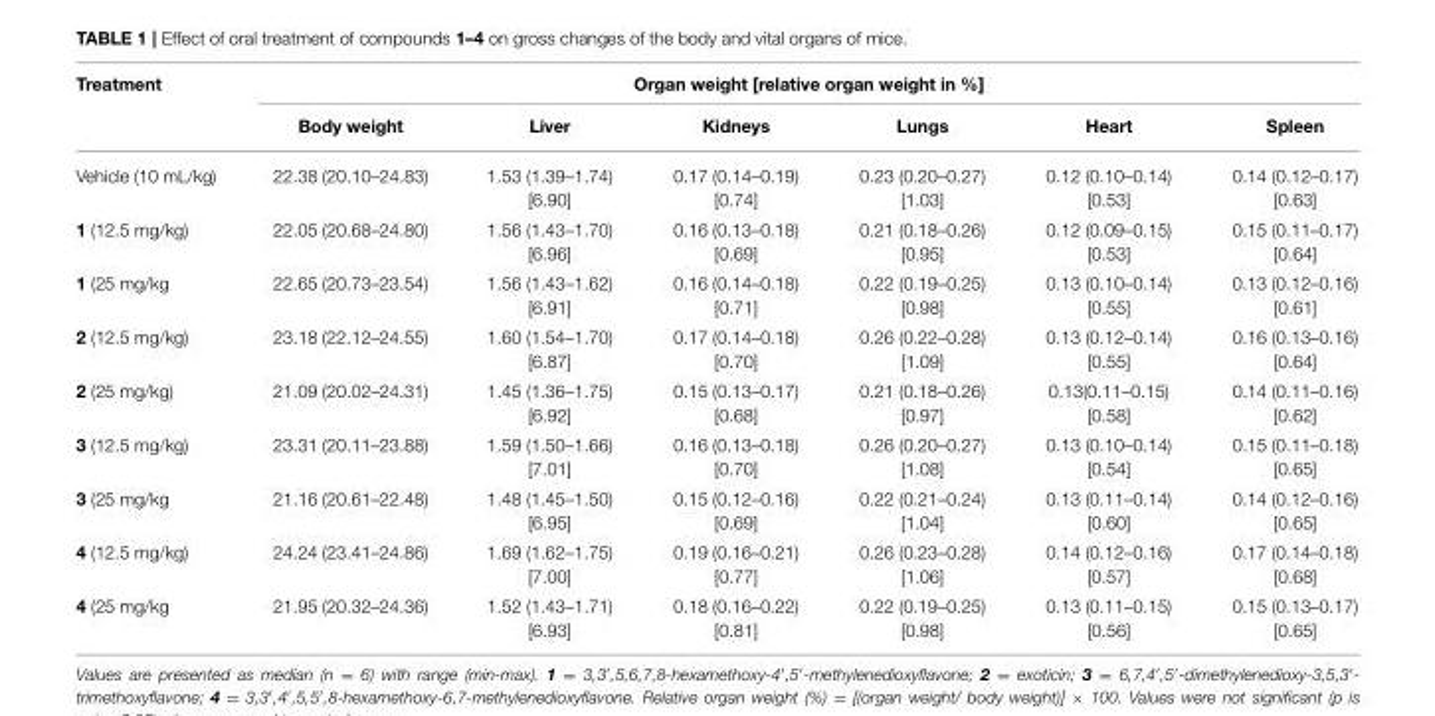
<table><thead><tr><td rowspan="2">Treatment</td><td colspan="6">Organ weight [relative organ weight in %]</td></tr><tr><td>Body weight</td><td>Liver</td><td>Kidneys</td><td>Lungs</td><td>Heart</td><td>Spleen</td></tr></thead><tbody><tr><td>Vehicle (10 mL/kg)</td><td>22.38 (20.10–24.83)</td><td>1.53 (1.39–1.74) [6.90]</td><td>0.17 (0.14–0.19) [0.74]</td><td>0.23 (0.20–0.27) [1.03]</td><td>0.12 (0.10–0.14) [0.53]</td><td>0.14 (0.12–0.17) [0.63]</td></tr><tr><td>1 (12.5 mg/kg)</td><td>22.05 (20.68–24.80)</td><td>1.56 (1.43–1.70) [6.96]</td><td>0.16 (0.13–0.18) [0.69]</td><td>0.21 (0.18–0.26) [0.95]</td><td>0.12 (0.09–0.15) [0.53]</td><td>0.15 (0.11–0.17) [0.64]</td></tr><tr><td>1 (25 mg/kg</td><td>22.65 (20.73–23.54)</td><td>1.56 (1.43–1.62) [6.91]</td><td>0.16 (0.14–0.18) [0.71]</td><td>0.22 (0.19–0.25) [0.98]</td><td>0.13 (0.10–0.14) [0.55]</td><td>0.13 (0.12–0.16) [0.61]</td></tr><tr><td>2 (12.5 mg/kg)</td><td>23.18 (22.12–24.55)</td><td>1.60 (1.54–1.70) [6.87]</td><td>0.17 (0.14–0.18) [0.70]</td><td>0.26 (0.22–0.28) [1.09]</td><td>0.13 (0.12–0.14) [0.55]</td><td>0.16 (0.13–0.16) [0.64]</td></tr><tr><td>2 (25 mg/kg)</td><td>21.09 (20.02–24.31)</td><td>1.45 (1.36–1.75) [6.92]</td><td>0.15 (0.13–0.17) [0.68]</td><td>0.21 (0.18–0.26) [0.97]</td><td>0.13(0.11–0.15) [0.58]</td><td>0.14 (0.11–0.16) [0.62]</td></tr><tr><td>3 (12.5 mg/kg)</td><td>23.31 (20.11–23.88)</td><td>1.59 (1.50–1.66) [7.01]</td><td>0.16 (0.13–0.18) [0.70]</td><td>0.26 (0.20–0.27) [1.08]</td><td>0.13 (0.10–0.14) [0.54]</td><td>0.15 (0.11–0.18) [0.65]</td></tr><tr><td>3 (25 mg/kg</td><td>21.16 (20.61–22.48)</td><td>1.48 (1.45–1.50) [6.95]</td><td>0.15 (0.12–0.16) [0.69]</td><td>0.22 (0.21–0.24) [1.04]</td><td>0.13 (0.11–0.14) [0.60]</td><td>0.14 (0.12–0.16) [0.65]</td></tr><tr><td>4 (12.5 mg/kg)</td><td>24.24 (23.41–24.86)</td><td>1.69 (1.62–1.75) [7.00]</td><td>0.19 (0.16–0.21) [0.77]</td><td>0.26 (0.23–0.28) [1.06]</td><td>0.14 (0.12–0.16) [0.57]</td><td>0.17 (0.14–0.18) [0.68]</td></tr><tr><td>4 (25 mg/kg</td><td>21.95 (20.32–24.36)</td><td>1.52 (1.43–1.71) [6.93]</td><td>0.18 (0.16–0.22) [0.81]</td><td>0.22 (0.19–0.25) [0.98]</td><td>0.13 (0.11–0.15) [0.56]</td><td>0.15 (0.13–0.17) [0.65]</td></tr></tbody></table>